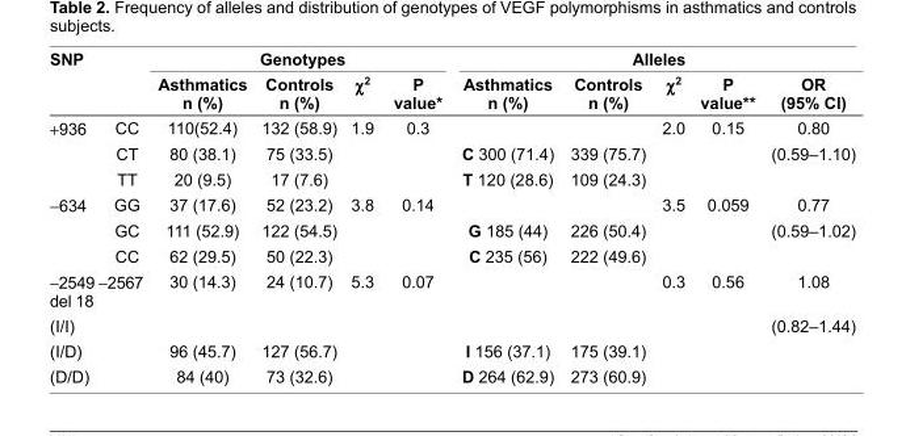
<table><thead><tr><td rowspan="2">SNP</td><td rowspan="2"></td><td colspan="4">Genotypes</td><td colspan="5">Alleles</td></tr><tr><td>Asthmatics n (%)</td><td>Controls n (%)</td><td>χ<sup>2</sup></td><td>P value*</td><td>Asthmatics n (%)</td><td>Controls n (%)</td><td>χ<sup>2</sup></td><td>P value**</td><td>OR (95% CI)</td></tr></thead><tbody><tr><td rowspan="3">+936</td><td>CC</td><td>110(52.4)</td><td>132 (58.9)</td><td>1.9</td><td>0.3</td><td></td><td></td><td>2.0</td><td>0.15</td><td>0.80</td></tr><tr><td>CT</td><td>80 (38.1)</td><td>75 (33.5)</td><td></td><td></td><td>C 300 (71.4)</td><td>339 (75.7)</td><td></td><td></td><td>(0.59–1.10)</td></tr><tr><td>TT</td><td>20 (9.5)</td><td>17 (7.6)</td><td></td><td></td><td>T 120 (28.6)</td><td>109 (24.3)</td><td></td><td></td><td></td></tr><tr><td rowspan="3">−634</td><td>GG</td><td>37 (17.6)</td><td>52 (23.2)</td><td>3.8</td><td>0.14</td><td></td><td></td><td>3.5</td><td>0.059</td><td>0.77</td></tr><tr><td>GC</td><td>111 (52.9)</td><td>122 (54.5)</td><td></td><td></td><td>G 185 (44)</td><td>226 (50.4)</td><td></td><td></td><td>(0.59–1.02)</td></tr><tr><td>CC</td><td>62 (29.5)</td><td>50 (22.3)</td><td></td><td></td><td>C 235 (56)</td><td>222 (49.6)</td><td></td><td></td><td></td></tr><tr><td colspan="2">−2549 −2567 del 18</td><td>30 (14.3)</td><td>24 (10.7)</td><td>5.3</td><td>0.07</td><td></td><td></td><td>0.3</td><td>0.56</td><td>1.08</td></tr><tr><td>(I/I)</td><td></td><td></td><td></td><td></td><td></td><td></td><td></td><td></td><td></td><td>(0.82–1.44)</td></tr><tr><td>(I/D)</td><td></td><td>96 (45.7)</td><td>127 (56.7)</td><td></td><td></td><td>I 156 (37.1)</td><td>175 (39.1)</td><td></td><td></td><td></td></tr><tr><td>(D/D)</td><td></td><td>84 (40)</td><td>73 (32.6)</td><td></td><td></td><td>D 264 (62.9)</td><td>273 (60.9)</td><td></td><td></td><td></td></tr></tbody></table>